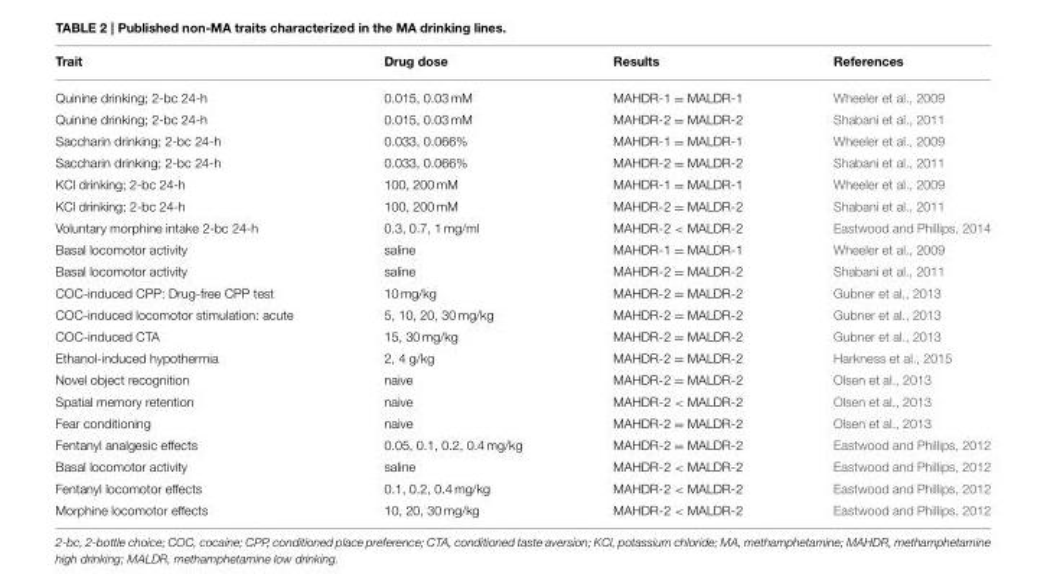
<table><thead><tr><td>Trait</td><td>Drug dose</td><td>Results</td><td>References</td></tr></thead><tbody><tr><td>Quinine drinking; 2-bc 24-h</td><td>0.015, 0.03 mM</td><td>MAHDR-1 = MALDR-1</td><td>Wheeler et al., 2009</td></tr><tr><td>Quinine drinking; 2-bc 24-h</td><td>0.015, 0.03 mM</td><td>MAHDR-2 = MALDR-2</td><td>Shabani et al., 2011</td></tr><tr><td>Saccharin drinking; 2-bc 24-h</td><td>0.033, 0.066%</td><td>MAHDR-1 = MALDR-1</td><td>Wheeler et al., 2009</td></tr><tr><td>Saccharin drinking; 2-bc 24-h</td><td>0.033, 0.066%</td><td>MAHDR-2 = MALDR-2</td><td>Shabani et al., 2011</td></tr><tr><td>KCl drinking; 2-bc 24-h</td><td>100, 200 mM</td><td>MAHDR-1 = MALDR-1</td><td>Wheeler et al., 2009</td></tr><tr><td>KCl drinking; 2-bc 24-h</td><td>100, 200 mM</td><td>MAHDR-2 = MALDR-2</td><td>Shabani et al., 2011</td></tr><tr><td>Voluntary morphine intake 2-bc 24-h</td><td>0.3, 0.7, 1 mg/ml</td><td>MAHDR-2 &lt; MALDR-2</td><td>Eastwood and Phillips, 2014</td></tr><tr><td>Basal locomotor activity</td><td>saline</td><td>MAHDR-1 = MALDR-1</td><td>Wheeler et al., 2009</td></tr><tr><td>Basal locomotor activity</td><td>saline</td><td>MAHDR-2 = MALDR-2</td><td>Shabani et al., 2011</td></tr><tr><td>COC-induced CPP: Drug-free CPP test</td><td>10 mg/kg</td><td>MAHDR-2 = MALDR-2</td><td>Gubner et al., 2013</td></tr><tr><td>COC-induced locomotor stimulation: acute</td><td>5, 10, 20, 30 mg/kg</td><td>MAHDR-2 = MALDR-2</td><td>Gubner et al., 2013</td></tr><tr><td>COC-induced CTA</td><td>15, 30 mg/kg</td><td>MAHDR-2 = MALDR-2</td><td>Gubner et al., 2013</td></tr><tr><td>Ethanol-induced hypothermia</td><td>2, 4 g/kg</td><td>MAHDR-2 = MALDR-2</td><td>Harkness et al., 2015</td></tr><tr><td>Novel object recognition</td><td>naive</td><td>MAHDR-2 = MALDR-2</td><td>Olsen et al., 2013</td></tr><tr><td>Spatial memory retention</td><td>naive</td><td>MAHDR-2 &lt; MALDR-2</td><td>Olsen et al., 2013</td></tr><tr><td>Fear conditioning</td><td>naive</td><td>MAHDR-2 = MALDR-2</td><td>Olsen et al., 2013</td></tr><tr><td>Fentanyl analgesic effects</td><td>0.05, 0.1, 0.2, 0.4 mg/kg</td><td>MAHDR-2 = MALDR-2</td><td>Eastwood and Phillips, 2012</td></tr><tr><td>Basal locomotor activity</td><td>saline</td><td>MAHDR-2 &lt; MALDR-2</td><td>Eastwood and Phillips, 2012</td></tr><tr><td>Fentanyl locomotor effects</td><td>0.1, 0.2, 0.4 mg/kg</td><td>MAHDR-2 &lt; MALDR-2</td><td>Eastwood and Phillips, 2012</td></tr><tr><td>Morphine locomotor effects</td><td>10, 20, 30 mg/kg</td><td>MAHDR-2 &lt; MALDR-2</td><td>Eastwood and Phillips, 2012</td></tr></tbody></table>